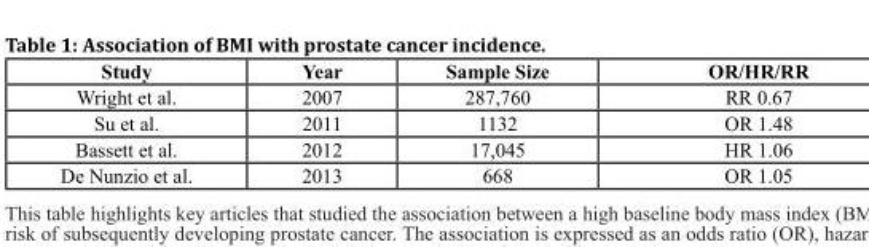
<table><thead><tr><td>Study</td><td>Year</td><td>Sample Size</td><td>OR/HR/RR</td></tr></thead><tbody><tr><td>Wright et al.</td><td>2007</td><td>287,760</td><td>RR 0.67</td></tr><tr><td>Su et al.</td><td>2011</td><td>1132</td><td>OR 1.48</td></tr><tr><td>Bassett et al.</td><td>2012</td><td>17,045</td><td>HR 1.06</td></tr><tr><td>De Nunzio et al.</td><td>2013</td><td>668</td><td>OR 1.05</td></tr></tbody></table>